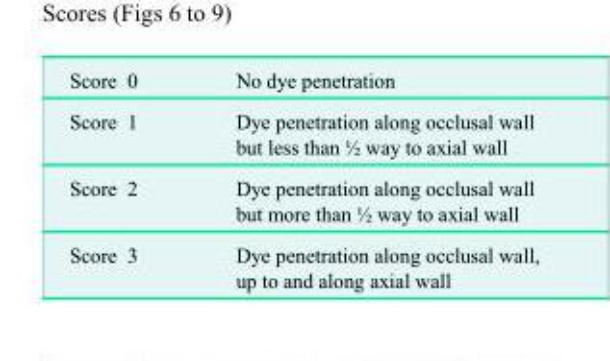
<table><tbody><tr><td>Score 0</td><td>No dye penetration</td></tr><tr><td>Score 1</td><td>Dye penetration along occlusal wall but less than ½ way to axial wall</td></tr><tr><td>Score 2</td><td>Dye penetration along occlusal wall but more than ½ way to axial wall</td></tr><tr><td>Score 3</td><td>Dye penetration along occlusal wall, up to and along axial wall</td></tr></tbody></table>